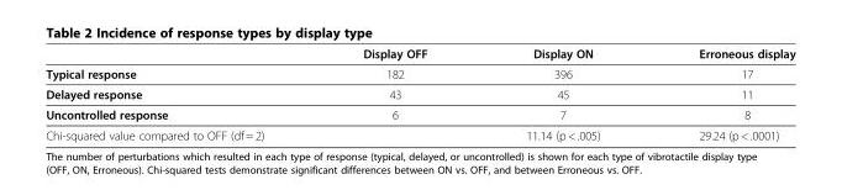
<table><thead><tr><td></td><td>Display OFF</td><td>Display ON</td><td>Erroneous display</td></tr></thead><tbody><tr><td>Typical response</td><td>182</td><td>396</td><td>17</td></tr><tr><td>Delayed response</td><td>43</td><td>45</td><td>11</td></tr><tr><td>Uncontrolled response</td><td>6</td><td>7</td><td>8</td></tr><tr><td>Chi-squared value compared to OFF (df = 2)</td><td></td><td>11.14 (p &lt; .005)</td><td>29.24 (p &lt; .0001)</td></tr></tbody></table>